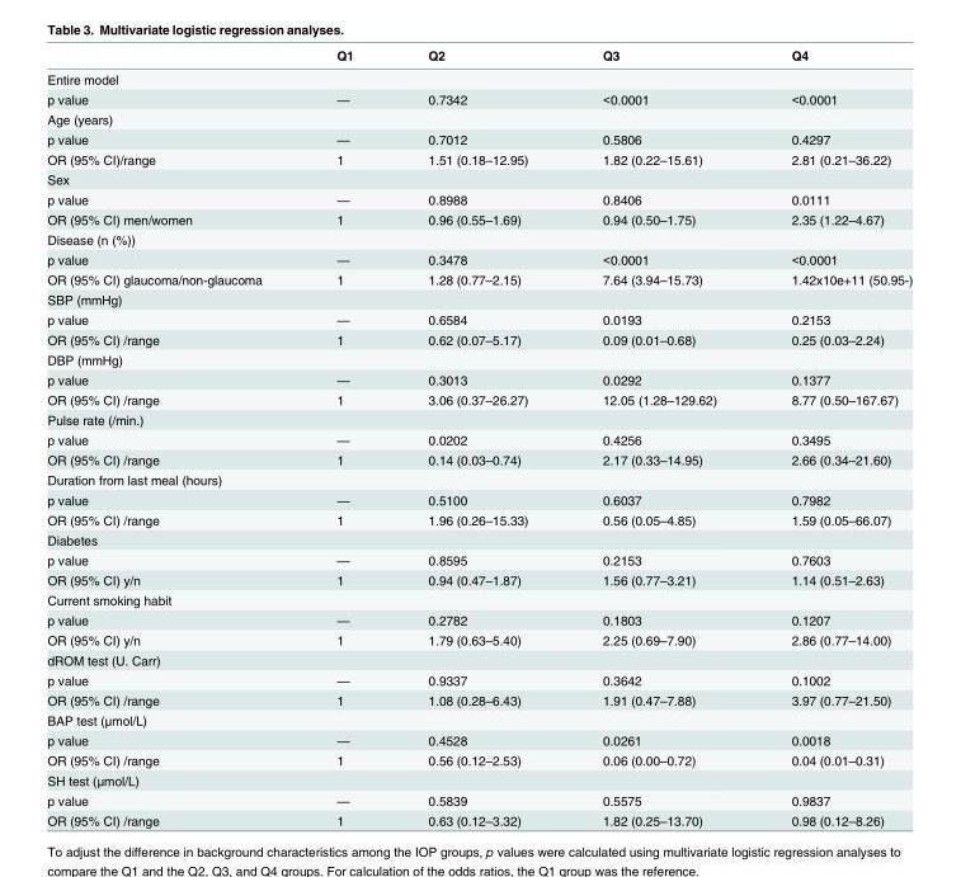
<table><thead><tr><td></td><td>Q1</td><td>Q2</td><td>Q3</td><td>Q4</td></tr></thead><tbody><tr><td colspan="5">Entire model</td></tr><tr><td>p value</td><td>—</td><td>0.7342</td><td>&lt;0.0001</td><td>&lt;0.0001</td></tr><tr><td colspan="5">Age (years)</td></tr><tr><td>p value</td><td>—</td><td>0.7012</td><td>0.5806</td><td>0.4297</td></tr><tr><td>OR (95% CI)/range</td><td>1</td><td>1.51 (0.18–12.95)</td><td>1.82 (0.22–15.61)</td><td>2.81 (0.21–36.22)</td></tr><tr><td colspan="5">Sex</td></tr><tr><td>p value</td><td>—</td><td>0.8988</td><td>0.8406</td><td>0.0111</td></tr><tr><td>OR (95% CI) men/women</td><td>1</td><td>0.96 (0.55–1.69)</td><td>0.94 (0.50–1.75)</td><td>2.35 (1.22–4.67)</td></tr><tr><td colspan="5">Disease (n (%))</td></tr><tr><td>p value</td><td>—</td><td>0.3478</td><td>&lt;0.0001</td><td>&lt;0.0001</td></tr><tr><td>OR (95% CI) glaucoma/non-glaucoma</td><td>1</td><td>1.28 (0.77–2.15)</td><td>7.64 (3.94–15.73)</td><td>1.42x10e+11 (50.95-)</td></tr><tr><td colspan="5">SBP (mmHg)</td></tr><tr><td>p value</td><td>—</td><td>0.6584</td><td>0.0193</td><td>0.2153</td></tr><tr><td>OR (95% CI) /range</td><td>1</td><td>0.62 (0.07–5.17)</td><td>0.09 (0.01–0.68)</td><td>0.25 (0.03–2.24)</td></tr><tr><td colspan="5">DBP (mmHg)</td></tr><tr><td>p value</td><td>—</td><td>0.3013</td><td>0.0292</td><td>0.1377</td></tr><tr><td>OR (95% CI) /range</td><td>1</td><td>3.06 (0.37–26.27)</td><td>12.05 (1.28–129.62)</td><td>8.77 (0.50–167.67)</td></tr><tr><td colspan="5">Pulse rate (/min.)</td></tr><tr><td>p value</td><td>—</td><td>0.0202</td><td>0.4256</td><td>0.3495</td></tr><tr><td>OR (95% CI) /range</td><td>1</td><td>0.14 (0.03–0.74)</td><td>2.17 (0.33–14.95)</td><td>2.66 (0.34–21.60)</td></tr><tr><td colspan="5">Duration from last meal (hours)</td></tr><tr><td>p value</td><td>—</td><td>0.5100</td><td>0.6037</td><td>0.7982</td></tr><tr><td>OR (95% CI) /range</td><td>1</td><td>1.96 (0.26–15.33)</td><td>0.56 (0.05–4.85)</td><td>1.59 (0.05–66.07)</td></tr><tr><td colspan="5">Diabetes</td></tr><tr><td>p value</td><td>—</td><td>0.8595</td><td>0.2153</td><td>0.7603</td></tr><tr><td>OR (95% CI) y/n</td><td>1</td><td>0.94 (0.47–1.87)</td><td>1.56 (0.77–3.21)</td><td>1.14 (0.51–2.63)</td></tr><tr><td colspan="5">Current smoking habit</td></tr><tr><td>p value</td><td>—</td><td>0.2782</td><td>0.1803</td><td>0.1207</td></tr><tr><td>OR (95% CI) y/n</td><td>1</td><td>1.79 (0.63–5.40)</td><td>2.25 (0.69–7.90)</td><td>2.86 (0.77–14.00)</td></tr><tr><td colspan="5">dROM test (U. Carr)</td></tr><tr><td>p value</td><td>—</td><td>0.9337</td><td>0.3642</td><td>0.1002</td></tr><tr><td>OR (95% CI) /range</td><td>1</td><td>1.08 (0.28–6.43)</td><td>1.91 (0.47–7.88)</td><td>3.97 (0.77–21.50)</td></tr><tr><td colspan="5">BAP test (μmol/L)</td></tr><tr><td>p value</td><td>—</td><td>0.4528</td><td>0.0261</td><td>0.0018</td></tr><tr><td>OR (95% CI) /range</td><td>1</td><td>0.56 (0.12–2.53)</td><td>0.06 (0.00–0.72)</td><td>0.04 (0.01–0.31)</td></tr><tr><td colspan="5">SH test (μmol/L)</td></tr><tr><td>p value</td><td>—</td><td>0.5839</td><td>0.5575</td><td>0.9837</td></tr><tr><td>OR (95% CI) /range</td><td>1</td><td>0.63 (0.12–3.32)</td><td>1.82 (0.25–13.70)</td><td>0.98 (0.12–8.26)</td></tr></tbody></table>